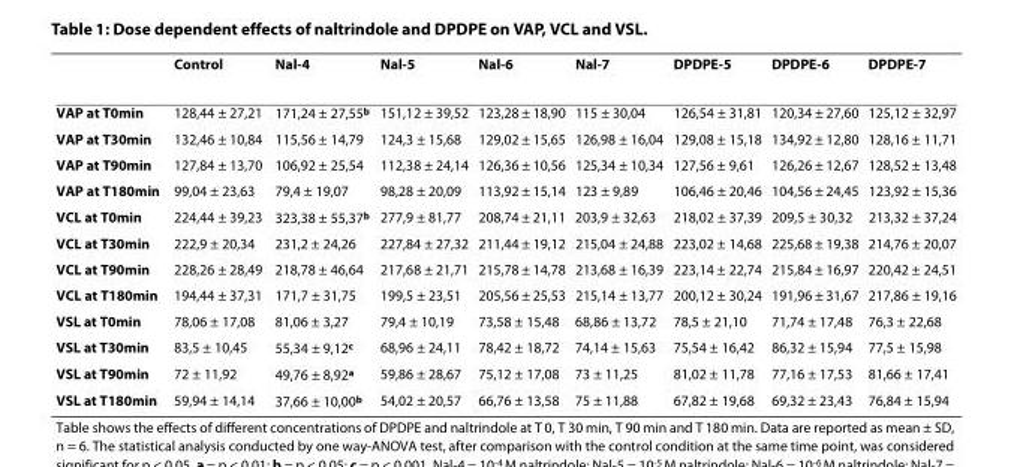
<table><thead><tr><td></td><td>Control</td><td>Nal-4</td><td>Nal-5</td><td>Nal-6</td><td>Nal-7</td><td>DPDPE-5</td><td>DPDPE-6</td><td>DPDPE-7</td></tr></thead><tbody><tr><td>VAP at T0min</td><td>128,44 ± 27,21</td><td>171,24 ± 27,55<sup>b</sup></td><td>151,12 ± 39,52</td><td>123,28 ± 18,90</td><td>115 ± 30,04</td><td>126,54 ± 31,81</td><td>120,34 ± 27,60</td><td>125,12 ± 32,97</td></tr><tr><td>VAP at T30min</td><td>132,46 ± 10,84</td><td>115,56 ± 14,79</td><td>124,3 ± 15,68</td><td>129,02 ± 15,65</td><td>126,98 ± 16,04</td><td>129,08 ± 15,18</td><td>134,92 ± 12,80</td><td>128,16 ± 11,71</td></tr><tr><td>VAP at T90min</td><td>127,84 ± 13,70</td><td>106,92 ± 25,54</td><td>112,38 ± 24,14</td><td>126,36 ± 10,56</td><td>125,34 ± 10,34</td><td>127,56 ± 9,61</td><td>126,26 ± 12,67</td><td>128,52 ± 13,48</td></tr><tr><td>VAP at T180min</td><td>99,04 ± 23,63</td><td>79,4 ± 19,07</td><td>98,28 ± 20,09</td><td>113,92 ± 15,14</td><td>123 ± 9,89</td><td>106,46 ± 20,46</td><td>104,56 ± 24,45</td><td>123,92 ± 15,36</td></tr><tr><td>VCL at T0min</td><td>224,44 ± 39,23</td><td>323,38 ± 55,37<sup>b</sup></td><td>277,9 ± 81,77</td><td>208,74 ± 21,11</td><td>203,9 ± 32,63</td><td>218,02 ± 37,39</td><td>209,5 ± 30,32</td><td>213,32 ± 37,24</td></tr><tr><td>VCL at T30min</td><td>222,9 ± 20,34</td><td>231,2 ± 24,26</td><td>227,84 ± 27,32</td><td>211,44 ± 19,12</td><td>215,04 ± 24,88</td><td>223,02 ± 14,68</td><td>225,68 ± 19,38</td><td>214,76 ± 20,07</td></tr><tr><td>VCL at T90min</td><td>228,26 ± 28,49</td><td>218,78 ± 46,64</td><td>217,68 ± 21,71</td><td>215,78 ± 14,78</td><td>213,68 ± 16,39</td><td>223,14 ± 22,74</td><td>215,84 ± 16,97</td><td>220,42 ± 24,51</td></tr><tr><td>VCL at T180min</td><td>194,44 ± 37,31</td><td>171,7 ± 31,75</td><td>199,5 ± 23,51</td><td>205,56 ± 25,53</td><td>215,14 ± 13,77</td><td>200,12 ± 30,24</td><td>191,96 ± 31,67</td><td>217,86 ± 19,16</td></tr><tr><td>VSL at T0min</td><td>78,06 ± 17,08</td><td>81,06 ± 3,27</td><td>79,4 ± 10,19</td><td>73,58 ± 15,48</td><td>68,86 ± 13,72</td><td>78,5 ± 21,10</td><td>71,74 ± 17,48</td><td>76,3 ± 22,68</td></tr><tr><td>VSL at T30min</td><td>83,5 ± 10,45</td><td>55,34 ± 9,12<sup>c</sup></td><td>68,96 ± 24,11</td><td>78,42 ± 18,72</td><td>74,14 ± 15,63</td><td>75,54 ± 16,42</td><td>86,32 ± 15,94</td><td>77,5 ± 15,98</td></tr><tr><td>VSL at T90min</td><td>72 ± 11,92</td><td>49,76 ± 8,92<sup>a</sup></td><td>59,86 ± 28,67</td><td>75,12 ± 17,08</td><td>73 ± 11,25</td><td>81,02 ± 11,78</td><td>77,16 ± 17,53</td><td>81,66 ± 17,41</td></tr><tr><td>VSL at T180min</td><td>59,94 ± 14,14</td><td>37,66 ± 10,00<sup>b</sup></td><td>54,02 ± 20,57</td><td>66,76 ± 13,58</td><td>75 ± 11,88</td><td>67,82 ± 19,68</td><td>69,32 ± 23,43</td><td>76,84 ± 15,94</td></tr></tbody></table>